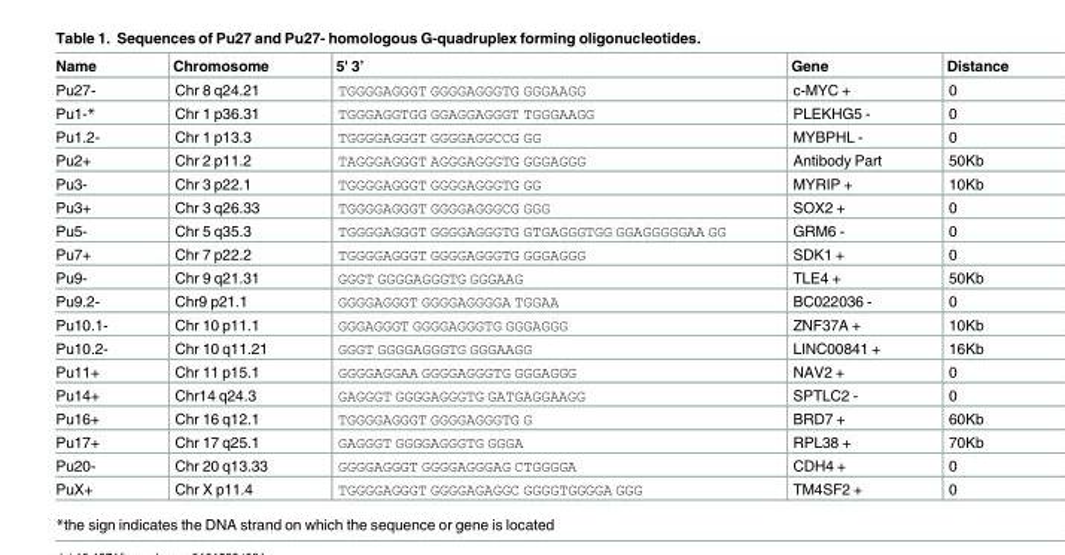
<table><thead><tr><td>Name</td><td>Chromosome</td><td>5&#x27; 3’</td><td>Gene</td><td>Distance</td></tr></thead><tbody><tr><td>Pu27-</td><td>Chr 8 q24.21</td><td>TGGGGAGGGT GGGGAGGGTG GGGAAGG</td><td>c-MYC +</td><td>0</td></tr><tr><td>Pu1-*</td><td>Chr 1 p36.31</td><td>TGGGAGGTGG GGAGGAGGGT TGGGAAGG</td><td>PLEKHG5 -</td><td>0</td></tr><tr><td>Pu1.2-</td><td>Chr 1 p13.3</td><td>TGGGGAGGGT GGGGAGGCCG GG</td><td>MYBPHL -</td><td>0</td></tr><tr><td>Pu2+</td><td>Chr 2 p11.2</td><td>TAGGGAGGGT AGGGAGGGTG GGGAGGG</td><td>Antibody Part</td><td>50Kb</td></tr><tr><td>Pu3-</td><td>Chr 3 p22.1</td><td>TGGGGAGGGT GGGGAGGGTG GG</td><td>MYRIP +</td><td>10Kb</td></tr><tr><td>Pu3+</td><td>Chr 3 q26.33</td><td>TGGGGAGGGT GGGGAGGGCG GGG</td><td>SOX2 +</td><td>0</td></tr><tr><td>Pu5-</td><td>Chr 5 q35.3</td><td>TGGGGAGGGT GGGGAGGGTG GTGAGGGTGG GGAGGGGGAA GG</td><td>GRM6 -</td><td>0</td></tr><tr><td>Pu7+</td><td>Chr 7 p22.2</td><td>TGGGGAGGGT GGGGAGGGTG GGGAGGG</td><td>SDK1 +</td><td>0</td></tr><tr><td>Pu9-</td><td>Chr 9 q21.31</td><td>GGGT GGGGAGGGTG GGGAAG</td><td>TLE4 +</td><td>50Kb</td></tr><tr><td>Pu9.2-</td><td>Chr9 p21.1</td><td>GGGGAGGGT GGGGAGGGGA TGGAA</td><td>BC022036 -</td><td>0</td></tr><tr><td>Pu10.1-</td><td>Chr 10 p11.1</td><td>GGGAGGGT GGGGAGGGTG GGGAGGG</td><td>ZNF37A +</td><td>10Kb</td></tr><tr><td>Pu10.2-</td><td>Chr 10 q11.21</td><td>GGGT GGGGAGGGTG GGGAAGG</td><td>LINC00841 +</td><td>16Kb</td></tr><tr><td>Pu11+</td><td>Chr 11 p15.1</td><td>GGGGAGGAA GGGGAGGGTG GGGAGGG</td><td>NAV2 +</td><td>0</td></tr><tr><td>Pu14+</td><td>Chr14 q24.3</td><td>GAGGGT GGGGAGGGTG GATGAGGAAGG</td><td>SPTLC2 -</td><td>0</td></tr><tr><td>Pu16+</td><td>Chr 16 q12.1</td><td>TGGGGAGGGT GGGGAGGGTG G</td><td>BRD7 +</td><td>60Kb</td></tr><tr><td>Pu17+</td><td>Chr 17 q25.1</td><td>GAGGGT GGGGAGGGTG GGGA</td><td>RPL38 +</td><td>70Kb</td></tr><tr><td>Pu20-</td><td>Chr 20 q13.33</td><td>GGGGAGGGT GGGGAGGGAG CTGGGGA</td><td>CDH4 +</td><td>0</td></tr><tr><td>PuX+</td><td>Chr X p11.4</td><td>TGGGGAGGGT GGGGAGAGGC GGGGTGGGGA GGG</td><td>TM4SF2 +</td><td>0</td></tr></tbody></table>